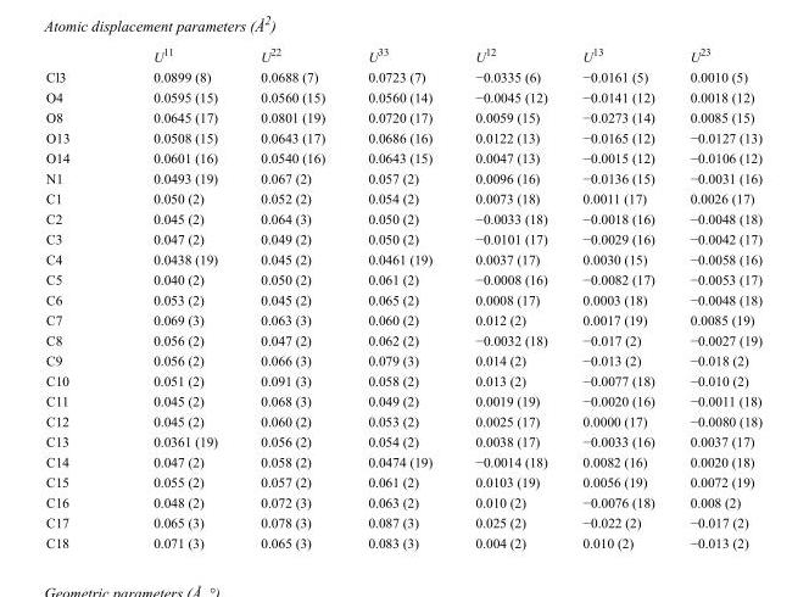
<table><thead><tr><td></td><td>U<sup>11</sup></td><td>U<sup>22</sup></td><td>U<sup>33</sup></td><td>U<sup>12</sup></td><td>U<sup>13</sup></td><td>U<sup>23</sup></td></tr></thead><tbody><tr><td>Cl3</td><td>0.0899 (8)</td><td>0.0688 (7)</td><td>0.0723 (7)</td><td>−0.0335 (6)</td><td>−0.0161 (5)</td><td>0.0010 (5)</td></tr><tr><td>O4</td><td>0.0595 (15)</td><td>0.0560 (15)</td><td>0.0560 (14)</td><td>−0.0045 (12)</td><td>−0.0141 (12)</td><td>0.0018 (12)</td></tr><tr><td>O8</td><td>0.0645 (17)</td><td>0.0801 (19)</td><td>0.0720 (17)</td><td>0.0059 (15)</td><td>−0.0273 (14)</td><td>0.0085 (15)</td></tr><tr><td>O13</td><td>0.0508 (15)</td><td>0.0643 (17)</td><td>0.0686 (16)</td><td>0.0122 (13)</td><td>−0.0165 (12)</td><td>−0.0127 (13)</td></tr><tr><td>O14</td><td>0.0601 (16)</td><td>0.0540 (16)</td><td>0.0643 (15)</td><td>0.0047 (13)</td><td>−0.0015 (12)</td><td>−0.0106 (12)</td></tr><tr><td>N1</td><td>0.0493 (19)</td><td>0.067 (2)</td><td>0.057 (2)</td><td>0.0096 (16)</td><td>−0.0136 (15)</td><td>−0.0031 (16)</td></tr><tr><td>C1</td><td>0.050 (2)</td><td>0.052 (2)</td><td>0.054 (2)</td><td>0.0073 (18)</td><td>0.0011 (17)</td><td>0.0026 (17)</td></tr><tr><td>C2</td><td>0.045 (2)</td><td>0.064 (3)</td><td>0.050 (2)</td><td>−0.0033 (18)</td><td>−0.0018 (16)</td><td>−0.0048 (18)</td></tr><tr><td>C3</td><td>0.047 (2)</td><td>0.049 (2)</td><td>0.050 (2)</td><td>−0.0101 (17)</td><td>−0.0029 (16)</td><td>−0.0042 (17)</td></tr><tr><td>C4</td><td>0.0438 (19)</td><td>0.045 (2)</td><td>0.0461 (19)</td><td>0.0037 (17)</td><td>0.0030 (15)</td><td>−0.0058 (16)</td></tr><tr><td>C5</td><td>0.040 (2)</td><td>0.050 (2)</td><td>0.061 (2)</td><td>−0.0008 (16)</td><td>−0.0082 (17)</td><td>−0.0053 (17)</td></tr><tr><td>C6</td><td>0.053 (2)</td><td>0.045 (2)</td><td>0.065 (2)</td><td>0.0008 (17)</td><td>0.0003 (18)</td><td>−0.0048 (18)</td></tr><tr><td>C7</td><td>0.069 (3)</td><td>0.063 (3)</td><td>0.060 (2)</td><td>0.012 (2)</td><td>0.0017 (19)</td><td>0.0085 (19)</td></tr><tr><td>C8</td><td>0.056 (2)</td><td>0.047 (2)</td><td>0.062 (2)</td><td>−0.0032 (18)</td><td>−0.017 (2)</td><td>−0.0027 (19)</td></tr><tr><td>C9</td><td>0.056 (2)</td><td>0.066 (3)</td><td>0.079 (3)</td><td>0.014 (2)</td><td>−0.013 (2)</td><td>−0.018 (2)</td></tr><tr><td>C10</td><td>0.051 (2)</td><td>0.091 (3)</td><td>0.058 (2)</td><td>0.013 (2)</td><td>−0.0077 (18)</td><td>−0.010 (2)</td></tr><tr><td>C11</td><td>0.045 (2)</td><td>0.068 (3)</td><td>0.049 (2)</td><td>0.0019 (19)</td><td>−0.0020 (16)</td><td>−0.0011 (18)</td></tr><tr><td>C12</td><td>0.045 (2)</td><td>0.060 (2)</td><td>0.053 (2)</td><td>0.0025 (17)</td><td>0.0000 (17)</td><td>−0.0080 (18)</td></tr><tr><td>C13</td><td>0.0361 (19)</td><td>0.056 (2)</td><td>0.054 (2)</td><td>0.0038 (17)</td><td>−0.0033 (16)</td><td>0.0037 (17)</td></tr><tr><td>C14</td><td>0.047 (2)</td><td>0.058 (2)</td><td>0.0474 (19)</td><td>−0.0014 (18)</td><td>0.0082 (16)</td><td>0.0020 (18)</td></tr><tr><td>C15</td><td>0.055 (2)</td><td>0.057 (2)</td><td>0.061 (2)</td><td>0.0103 (19)</td><td>0.0056 (19)</td><td>0.0072 (19)</td></tr><tr><td>C16</td><td>0.048 (2)</td><td>0.072 (3)</td><td>0.063 (2)</td><td>0.010 (2)</td><td>−0.0076 (18)</td><td>0.008 (2)</td></tr><tr><td>C17</td><td>0.065 (3)</td><td>0.078 (3)</td><td>0.087 (3)</td><td>0.025 (2)</td><td>−0.022 (2)</td><td>−0.017 (2)</td></tr><tr><td>C18</td><td>0.071 (3)</td><td>0.065 (3)</td><td>0.083 (3)</td><td>0.004 (2)</td><td>0.010 (2)</td><td>−0.013 (2)</td></tr></tbody></table>